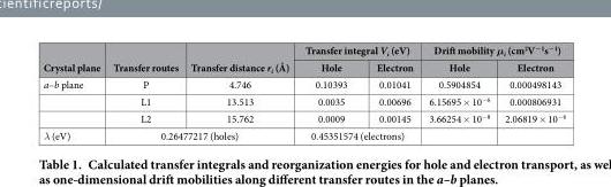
<table><thead><tr><td rowspan="2">Crystal plane</td><td rowspan="2">Transfer routes</td><td rowspan="2">Transfer distance r<sub>i</sub> (Å)</td><td colspan="2">Transfer integral V<sub>i</sub> (eV)</td><td colspan="2">Drift mobility μ<sub>i</sub> (cm<sup>2</sup>V<sup>−1</sup>s<sup>−1</sup>)</td></tr><tr><td>Hole</td><td>Electron</td><td>Hole</td><td>Electron</td></tr></thead><tbody><tr><td rowspan="3">a–b plane</td><td>P</td><td>4.746</td><td>0.10393</td><td>0.01041</td><td>0.5904854</td><td>0.000498143</td></tr><tr><td>L1</td><td>13.513</td><td>0.0035</td><td>0.00696</td><td>6.15695 × 10<sup>−6</sup></td><td>0.000806931</td></tr><tr><td>L2</td><td>15.762</td><td>0.0009</td><td>0.00145</td><td>3.66254 × 10<sup>−8</sup></td><td>2.06819 × 10<sup>−6</sup></td></tr><tr><td>λ (eV)</td><td colspan="2">0.26477217 (holes)</td><td colspan="2">0.45351574 (electrons)</td><td></td><td></td></tr></tbody></table>